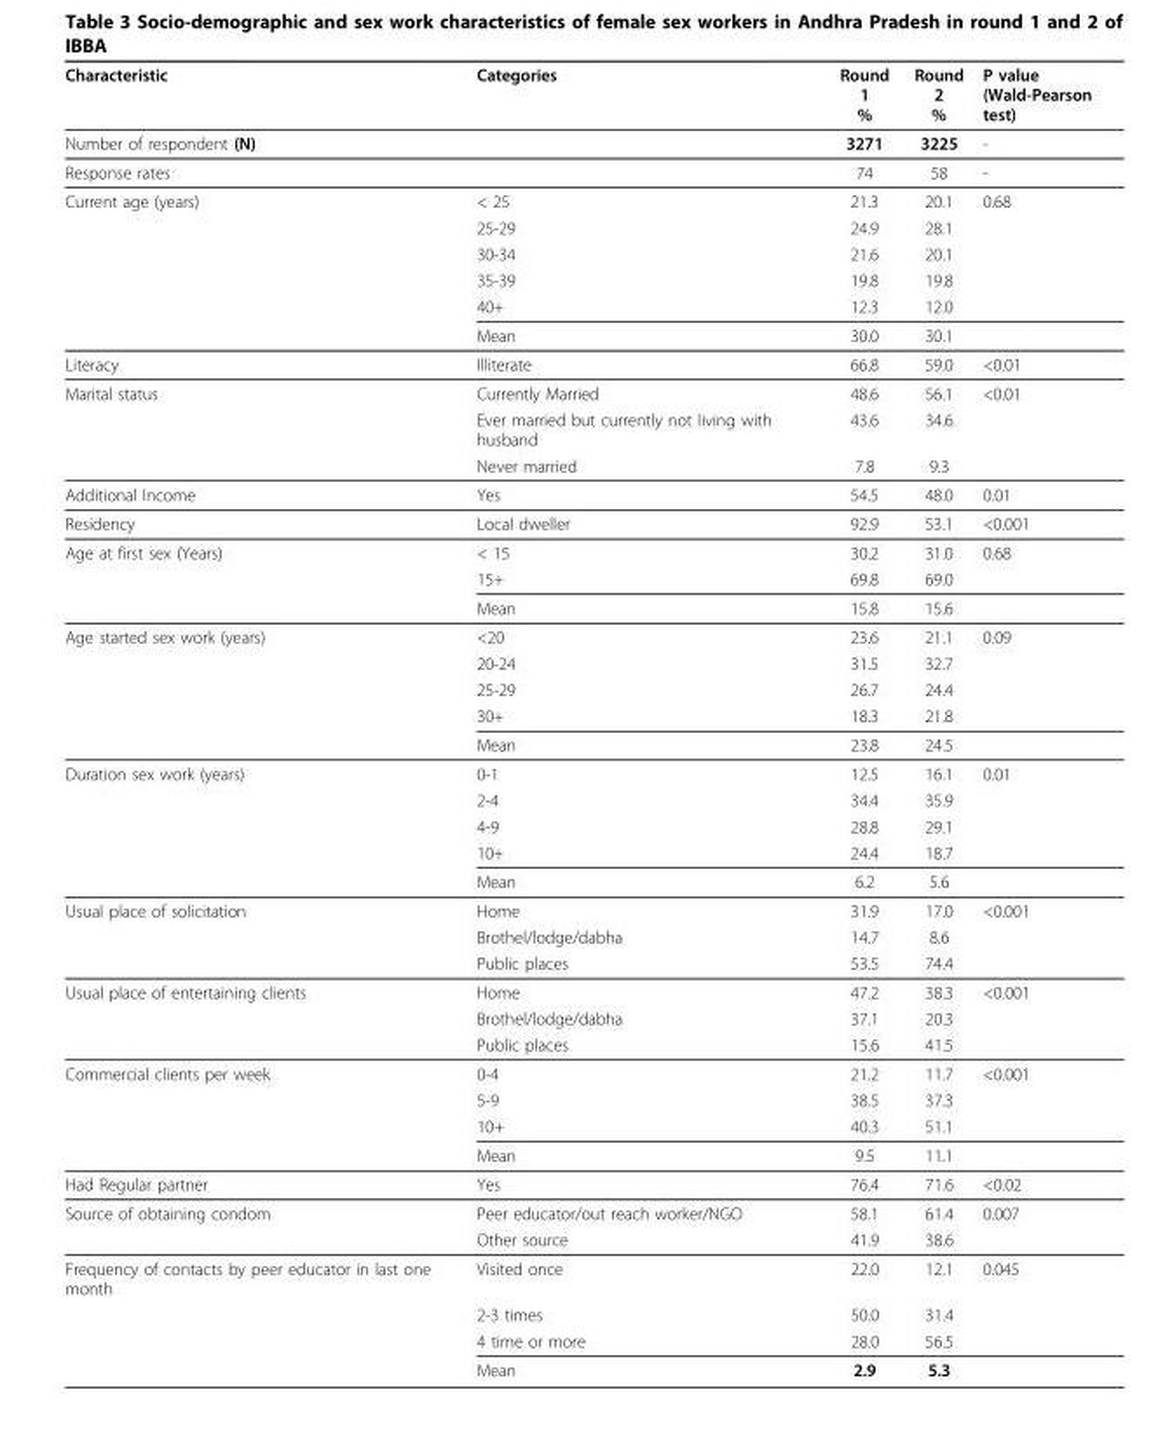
<table><thead><tr><td>Characteristic</td><td>Categories</td><td>Round 1 %</td><td>Round 2 %</td><td>P value (Wald-Pearson test)</td></tr></thead><tbody><tr><td>Number of respondent (N)</td><td></td><td>3271</td><td>3225</td><td>-</td></tr><tr><td>Response rates</td><td></td><td>74</td><td>58</td><td>-</td></tr><tr><td rowspan="6">Current age (years)</td><td>&lt; 25</td><td>21.3</td><td>20.1</td><td>0.68</td></tr><tr><td>25-29</td><td>24.9</td><td>28.1</td><td></td></tr><tr><td>30-34</td><td>21.6</td><td>20.1</td><td></td></tr><tr><td>35-39</td><td>19.8</td><td>19.8</td><td></td></tr><tr><td>40+</td><td>12.3</td><td>12.0</td><td></td></tr><tr><td>Mean</td><td>30.0</td><td>30.1</td><td></td></tr><tr><td>Literacy</td><td>Illiterate</td><td>66.8</td><td>59.0</td><td>&lt;0.01</td></tr><tr><td rowspan="3">Marital status</td><td>Currently Married</td><td>48.6</td><td>56.1</td><td>&lt;0.01</td></tr><tr><td>Ever married but currently not living with husband</td><td>43.6</td><td>34.6</td><td></td></tr><tr><td>Never married</td><td>7.8</td><td>9.3</td><td></td></tr><tr><td>Additional Income</td><td>Yes</td><td>54.5</td><td>48.0</td><td>0.01</td></tr><tr><td>Residency</td><td>Local dweller</td><td>92.9</td><td>53.1</td><td>&lt;0.001</td></tr><tr><td rowspan="3">Age at first sex (Years)</td><td>&lt; 15</td><td>30.2</td><td>31.0</td><td>0.68</td></tr><tr><td>15+</td><td>69.8</td><td>69.0</td><td></td></tr><tr><td>Mean</td><td>15.8</td><td>15.6</td><td></td></tr><tr><td rowspan="5">Age started sex work (years)</td><td>&lt;20</td><td>23.6</td><td>21.1</td><td>0.09</td></tr><tr><td>20-24</td><td>31.5</td><td>32.7</td><td></td></tr><tr><td>25-29</td><td>26.7</td><td>24.4</td><td></td></tr><tr><td>30+</td><td>18.3</td><td>21.8</td><td></td></tr><tr><td>Mean</td><td>23.8</td><td>24.5</td><td></td></tr><tr><td rowspan="5">Duration sex work (years)</td><td>0-1</td><td>12.5</td><td>16.1</td><td>0.01</td></tr><tr><td>2-4</td><td>34.4</td><td>35.9</td><td></td></tr><tr><td>4-9</td><td>28.8</td><td>29.1</td><td></td></tr><tr><td>10+</td><td>24.4</td><td>18.7</td><td></td></tr><tr><td>Mean</td><td>6.2</td><td>5.6</td><td></td></tr><tr><td rowspan="3">Usual place of solicitation</td><td>Home</td><td>31.9</td><td>17.0</td><td>&lt;0.001</td></tr><tr><td>Brothel/lodge/dabha</td><td>14.7</td><td>8.6</td><td></td></tr><tr><td>Public places</td><td>53.5</td><td>74.4</td><td></td></tr><tr><td rowspan="3">Usual place of entertaining clients</td><td>Home</td><td>47.2</td><td>38.3</td><td>&lt;0.001</td></tr><tr><td>Brothel/lodge/dabha</td><td>37.1</td><td>20.3</td><td></td></tr><tr><td>Public places</td><td>15.6</td><td>41.5</td><td></td></tr><tr><td rowspan="4">Commercial clients per week</td><td>0-4</td><td>21.2</td><td>11.7</td><td>&lt;0.001</td></tr><tr><td>5-9</td><td>38.5</td><td>37.3</td><td></td></tr><tr><td>10+</td><td>40.3</td><td>51.1</td><td></td></tr><tr><td>Mean</td><td>9.5</td><td>11.1</td><td></td></tr><tr><td>Had Regular partner</td><td>Yes</td><td>76.4</td><td>71.6</td><td>&lt;0.02</td></tr><tr><td rowspan="2">Source of obtaining condom</td><td>Peer educator/out reach worker/NGO</td><td>58.1</td><td>61.4</td><td>0.007</td></tr><tr><td>Other source</td><td>41.9</td><td>38.6</td><td></td></tr><tr><td rowspan="4">Frequency of contacts by peer educator in last one month</td><td>Visited once</td><td>22.0</td><td>12.1</td><td>0.045</td></tr><tr><td>2-3 times</td><td>50.0</td><td>31.4</td><td></td></tr><tr><td>4 time or more</td><td>28.0</td><td>56.5</td><td></td></tr><tr><td>Mean</td><td>2.9</td><td>5.3</td><td></td></tr></tbody></table>